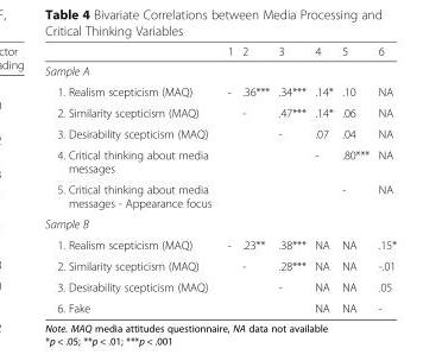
<table><thead><tr><td></td><td>1</td><td>2</td><td>3</td><td>4</td><td>5</td><td>6</td></tr></thead><tbody><tr><td colspan="7">Sample A</td></tr><tr><td>1. Realism scepticism (MAQ)</td><td>-</td><td>.36***</td><td>.34***</td><td>.14*</td><td>.10</td><td>NA</td></tr><tr><td>2. Similarity scepticism (MAQ)</td><td></td><td>-</td><td>.47***</td><td>.14*</td><td>.06</td><td>NA</td></tr><tr><td>3. Desirability scepticism (MAQ)</td><td></td><td></td><td>-</td><td>.07</td><td>.04</td><td>NA</td></tr><tr><td>4. Critical thinking about media messages</td><td></td><td></td><td></td><td>-</td><td>.80***</td><td>NA</td></tr><tr><td>5. Critical thinking about media messages - Appearance focus</td><td></td><td></td><td></td><td></td><td>-</td><td>NA</td></tr><tr><td colspan="7">Sample B</td></tr><tr><td>1. Realism scepticism (MAQ)</td><td>-</td><td>.23**</td><td>.38***</td><td>NA</td><td>NA</td><td>.15*</td></tr><tr><td>2. Similarity scepticism (MAQ)</td><td></td><td>-</td><td>.28***</td><td>NA</td><td>NA</td><td>-.01</td></tr><tr><td>3. Desirability scepticism (MAQ)</td><td></td><td></td><td>-</td><td>NA</td><td>NA</td><td>.05</td></tr><tr><td>6. Fake</td><td></td><td></td><td></td><td>NA</td><td>NA</td><td>-</td></tr></tbody></table>